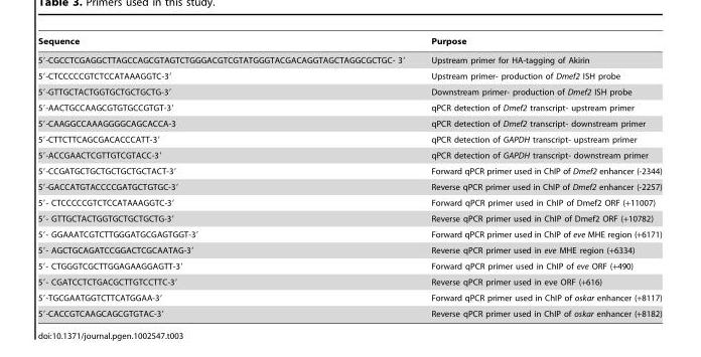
<table><thead><tr><td>Sequence</td><td>Purpose</td></tr></thead><tbody><tr><td>5′-CGCCTCGAGGCTTAGCCAGCGTAGTCTGGGACGTCGTATGGGTACGACAGGTAGCTAGGCGCTGC- 3′</td><td>Upstream primer for HA-tagging of Akirin</td></tr><tr><td>5′-CTCCCCCGTCTCCATAAAGGTC-3′</td><td>Upstream primer- production of Dmef2 ISH probe</td></tr><tr><td>5′-GTTGCTACTGGTGCTGCTGCTG-3′</td><td>Downstream primer- production of Dmef2 ISH probe</td></tr><tr><td>5′-AACTGCCAAGCGTGTGCCGTGT-3′</td><td>qPCR detection of Dmef2 transcript- upstream primer</td></tr><tr><td>5′-CAAGGCCAAAGGGGCAGCACCA-3</td><td>qPCR detection of Dmef2 transcript- downstream primer</td></tr><tr><td>5′-CTTCTTCAGCGACACCCATT-3′</td><td>qPCR detection of GAPDH transcript- upstream primer</td></tr><tr><td>5′-ACCGAACTCGTTGTCGTACC-3′</td><td>qPCR detection of GAPDH transcript- downstream primer</td></tr><tr><td>5′-CCGATGCTGCTGCTGCTGCTACT-3′</td><td>Forward qPCR primer used in ChIP of Dmef2 enhancer (-2344)</td></tr><tr><td>5′-GACCATGTACCCCGATGCTGTGC-3′</td><td>Reverse qPCR primer used in ChIP of Dmef2 enhancer (-2257)</td></tr><tr><td>5′- CTCCCCCGTCTCCATAAAGGTC-3′</td><td>Forward qPCR primer used in ChIP of Dmef2 ORF (+11007)</td></tr><tr><td>5′- GTTGCTACTGGTGCTGCTGCTG-3′</td><td>Reverse qPCR primer used in ChIP of Dmef2 ORF (+10782)</td></tr><tr><td>5′- GGAAATCGTCTTGGGATGCGAGTGGT-3′</td><td>Forward qPCR primer used in ChIP of eve MHE region (+6171)</td></tr><tr><td>5′- AGCTGCAGATCCGGACTCGCAATAG-3′</td><td>Reverse qPCR primer used in eve MHE region (+6334)</td></tr><tr><td>5′- CTGGGTCGCTTGGAGAAGGAGTT-3′</td><td>Forward qPCR primer used in ChIP of eve ORF (+490)</td></tr><tr><td>5′- CGATCCTCTGACGCTTGTCCTTC-3′</td><td>Reverse qPCR primer used in eve ORF (+616)</td></tr><tr><td>5′-TGCGAATGGTCTTCATGGAA-3′</td><td>Forward qPCR primer used in ChIP of oskar enhancer (+8117)</td></tr><tr><td>5′-CACCGTCAAGCAGCGTGTAC-3′</td><td>Reverse qPCR primer used in ChIP of oskar enhancer (+8182)</td></tr></tbody></table>